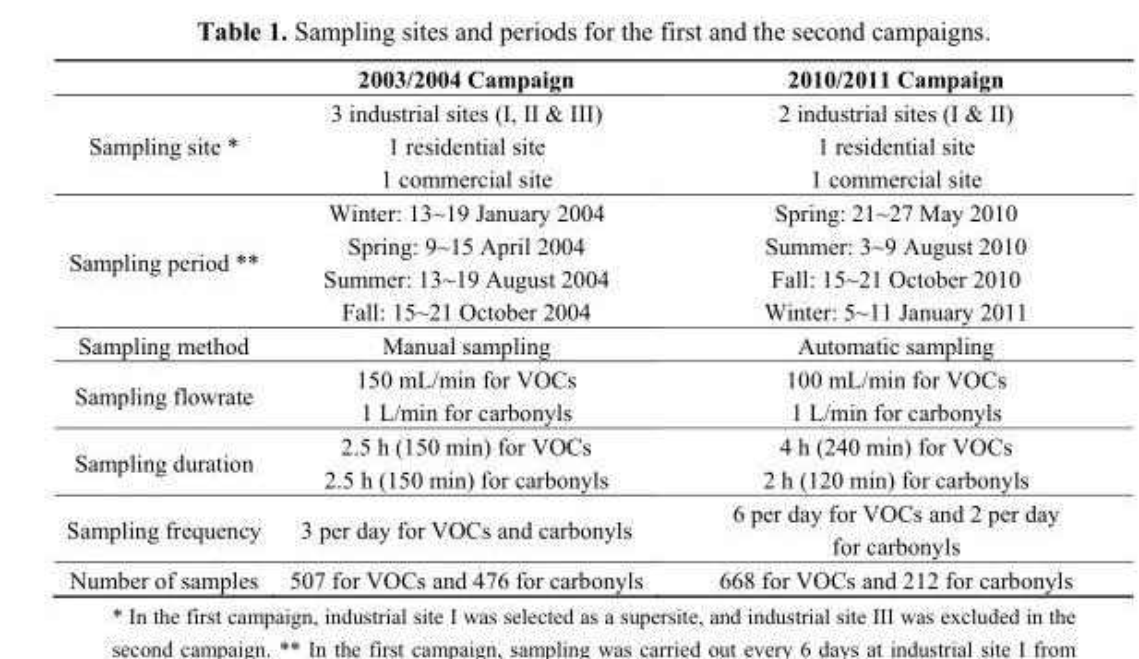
<table><thead><tr><td></td><td>2003/2004 Campaign</td><td>2010/2011 Campaign</td></tr></thead><tbody><tr><td rowspan="3">Sampling site *</td><td>3 industrial sites (I, II &amp; III)</td><td>2 industrial sites (I &amp; II)</td></tr><tr><td>1 residential site</td><td>1 residential site</td></tr><tr><td>1 commercial site</td><td>1 commercial site</td></tr><tr><td rowspan="4">Sampling period **</td><td>Winter: 13~19 January 2004</td><td>Spring: 21~27 May 2010</td></tr><tr><td>Spring: 9~15 April 2004</td><td>Summer: 3~9 August 2010</td></tr><tr><td>Summer: 13~19 August 2004</td><td>Fall: 15~21 October 2010</td></tr><tr><td>Fall: 15~21 October 2004</td><td>Winter: 5~11 January 2011</td></tr><tr><td>Sampling method</td><td>Manual sampling</td><td>Automatic sampling</td></tr><tr><td rowspan="2">Sampling flowrate</td><td>150 mL/min for VOCs</td><td>100 mL/min for VOCs</td></tr><tr><td>1 L/min for carbonyls</td><td>1 L/min for carbonyls</td></tr><tr><td rowspan="2">Sampling duration</td><td>2.5 h (150 min) for VOCs</td><td>4 h (240 min) for VOCs</td></tr><tr><td>2.5 h (150 min) for carbonyls</td><td>2 h (120 min) for carbonyls</td></tr><tr><td>Sampling frequency</td><td>3 per day for VOCs and carbonyls</td><td>6 per day for VOCs and 2 per day for carbonyls</td></tr><tr><td>Number of samples</td><td>507 for VOCs and 476 for carbonyls</td><td>668 for VOCs and 212 for carbonyls</td></tr></tbody></table>